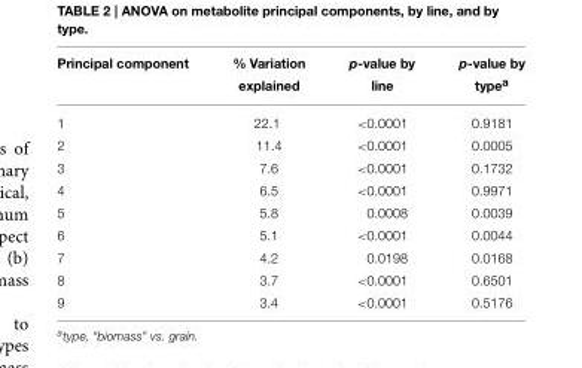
<table><thead><tr><td>Principal component</td><td>% Variation explained</td><td>p-value by line</td><td>p-value by type<sup>a</sup></td></tr></thead><tbody><tr><td>1</td><td>22.1</td><td>&lt;0.0001</td><td>0.9181</td></tr><tr><td>2</td><td>11.4</td><td>&lt;0.0001</td><td>0.0005</td></tr><tr><td>3</td><td>7.6</td><td>&lt;0.0001</td><td>0.1732</td></tr><tr><td>4</td><td>6.5</td><td>&lt;0.0001</td><td>0.9971</td></tr><tr><td>5</td><td>5.8</td><td>0.0008</td><td>0.0039</td></tr><tr><td>6</td><td>5.1</td><td>&lt;0.0001</td><td>0.0044</td></tr><tr><td>7</td><td>4.2</td><td>0.0198</td><td>0.0168</td></tr><tr><td>8</td><td>3.7</td><td>&lt;0.0001</td><td>0.6501</td></tr><tr><td>9</td><td>3.4</td><td>&lt;0.0001</td><td>0.5176</td></tr></tbody></table>